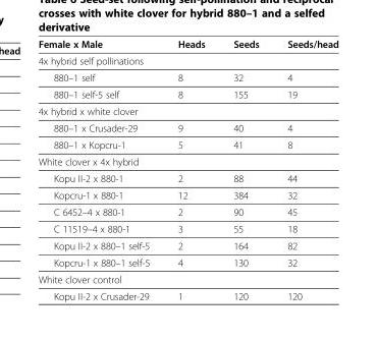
<table><thead><tr><td>Female x Male</td><td>Heads</td><td>Seeds</td><td>Seeds/head</td></tr></thead><tbody><tr><td colspan="4">4x hybrid self pollinations</td></tr><tr><td>880–1 self</td><td>8</td><td>32</td><td>4</td></tr><tr><td>880–1 self-5 self</td><td>8</td><td>155</td><td>19</td></tr><tr><td colspan="4">4x hybrid x white clover</td></tr><tr><td>880–1 x Crusader-29</td><td>9</td><td>40</td><td>4</td></tr><tr><td>880–1 x Kopcru-1</td><td>5</td><td>41</td><td>8</td></tr><tr><td colspan="4">White clover x 4x hybrid</td></tr><tr><td>Kopu II-2 x 880-1</td><td>2</td><td>88</td><td>44</td></tr><tr><td>Kopcru-1 x 880-1</td><td>12</td><td>384</td><td>32</td></tr><tr><td>C 6452–4 x 880-1</td><td>2</td><td>90</td><td>45</td></tr><tr><td>C 11519–4 x 880-1</td><td>3</td><td>55</td><td>18</td></tr><tr><td>Kopu II-2 x 880–1 self-5</td><td>2</td><td>164</td><td>82</td></tr><tr><td>Kopcru-1 x 880–1 self-5</td><td>4</td><td>130</td><td>32</td></tr><tr><td colspan="4">White clover control</td></tr><tr><td>Kopu II-2 x Crusader-29</td><td>1</td><td>120</td><td>120</td></tr></tbody></table>